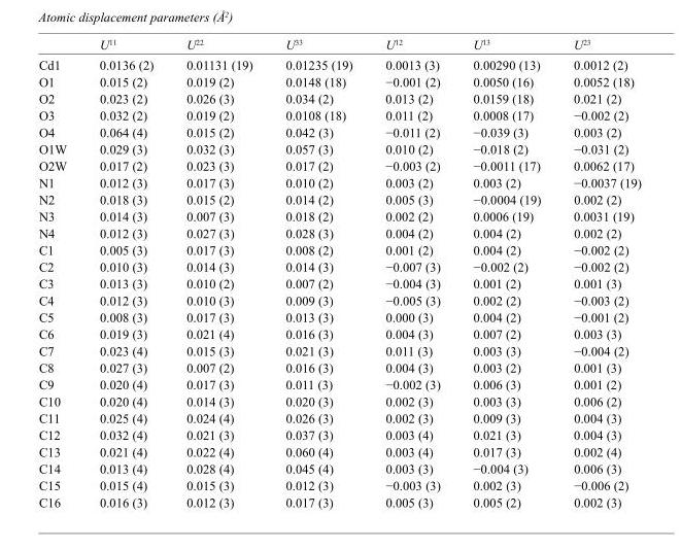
<table><thead><tr><td></td><td>U<sup>11</sup></td><td>U<sup>22</sup></td><td>U<sup>33</sup></td><td>U<sup>12</sup></td><td>U<sup>13</sup></td><td>U<sup>23</sup></td></tr></thead><tbody><tr><td>Cd1</td><td>0.0136 (2)</td><td>0.01131 (19)</td><td>0.01235 (19)</td><td>0.0013 (3)</td><td>0.00290 (13)</td><td>0.0012 (2)</td></tr><tr><td>O1</td><td>0.015 (2)</td><td>0.019 (2)</td><td>0.0148 (18)</td><td>−0.001 (2)</td><td>0.0050 (16)</td><td>0.0052 (18)</td></tr><tr><td>O2</td><td>0.023 (2)</td><td>0.026 (3)</td><td>0.034 (2)</td><td>0.013 (2)</td><td>0.0159 (18)</td><td>0.021 (2)</td></tr><tr><td>O3</td><td>0.032 (2)</td><td>0.019 (2)</td><td>0.0108 (18)</td><td>0.011 (2)</td><td>0.0008 (17)</td><td>−0.002 (2)</td></tr><tr><td>O4</td><td>0.064 (4)</td><td>0.015 (2)</td><td>0.042 (3)</td><td>−0.011 (2)</td><td>−0.039 (3)</td><td>0.003 (2)</td></tr><tr><td>O1W</td><td>0.029 (3)</td><td>0.032 (3)</td><td>0.057 (3)</td><td>0.010 (2)</td><td>−0.018 (2)</td><td>−0.031 (2)</td></tr><tr><td>O2W</td><td>0.017 (2)</td><td>0.023 (3)</td><td>0.017 (2)</td><td>−0.003 (2)</td><td>−0.0011 (17)</td><td>0.0062 (17)</td></tr><tr><td>N1</td><td>0.012 (3)</td><td>0.017 (3)</td><td>0.010 (2)</td><td>0.003 (2)</td><td>0.003 (2)</td><td>−0.0037 (19)</td></tr><tr><td>N2</td><td>0.018 (3)</td><td>0.015 (2)</td><td>0.014 (2)</td><td>0.005 (3)</td><td>−0.0004 (19)</td><td>0.002 (2)</td></tr><tr><td>N3</td><td>0.014 (3)</td><td>0.007 (3)</td><td>0.018 (2)</td><td>0.002 (2)</td><td>0.0006 (19)</td><td>0.0031 (19)</td></tr><tr><td>N4</td><td>0.012 (3)</td><td>0.027 (3)</td><td>0.028 (3)</td><td>0.004 (2)</td><td>0.004 (2)</td><td>0.002 (2)</td></tr><tr><td>C1</td><td>0.005 (3)</td><td>0.017 (3)</td><td>0.008 (2)</td><td>0.001 (2)</td><td>0.004 (2)</td><td>−0.002 (2)</td></tr><tr><td>C2</td><td>0.010 (3)</td><td>0.014 (3)</td><td>0.014 (3)</td><td>−0.007 (3)</td><td>−0.002 (2)</td><td>−0.002 (2)</td></tr><tr><td>C3</td><td>0.013 (3)</td><td>0.010 (2)</td><td>0.007 (2)</td><td>−0.004 (3)</td><td>0.001 (2)</td><td>0.001 (3)</td></tr><tr><td>C4</td><td>0.012 (3)</td><td>0.010 (3)</td><td>0.009 (3)</td><td>−0.005 (3)</td><td>0.002 (2)</td><td>−0.003 (2)</td></tr><tr><td>C5</td><td>0.008 (3)</td><td>0.017 (3)</td><td>0.013 (3)</td><td>0.000 (3)</td><td>0.004 (2)</td><td>−0.001 (2)</td></tr><tr><td>C6</td><td>0.019 (3)</td><td>0.021 (4)</td><td>0.016 (3)</td><td>0.004 (3)</td><td>0.007 (2)</td><td>0.003 (3)</td></tr><tr><td>C7</td><td>0.023 (4)</td><td>0.015 (3)</td><td>0.021 (3)</td><td>0.011 (3)</td><td>0.003 (3)</td><td>−0.004 (2)</td></tr><tr><td>C8</td><td>0.027 (3)</td><td>0.007 (2)</td><td>0.016 (3)</td><td>0.004 (3)</td><td>0.003 (2)</td><td>0.001 (3)</td></tr><tr><td>C9</td><td>0.020 (4)</td><td>0.017 (3)</td><td>0.011 (3)</td><td>−0.002 (3)</td><td>0.006 (3)</td><td>0.001 (2)</td></tr><tr><td>C10</td><td>0.020 (4)</td><td>0.014 (3)</td><td>0.020 (3)</td><td>0.002 (3)</td><td>0.003 (3)</td><td>0.006 (2)</td></tr><tr><td>C11</td><td>0.025 (4)</td><td>0.024 (4)</td><td>0.026 (3)</td><td>0.002 (3)</td><td>0.009 (3)</td><td>0.004 (3)</td></tr><tr><td>C12</td><td>0.032 (4)</td><td>0.021 (3)</td><td>0.037 (3)</td><td>0.003 (4)</td><td>0.021 (3)</td><td>0.004 (3)</td></tr><tr><td>C13</td><td>0.021 (4)</td><td>0.022 (4)</td><td>0.060 (4)</td><td>0.003 (4)</td><td>0.017 (3)</td><td>0.002 (4)</td></tr><tr><td>C14</td><td>0.013 (4)</td><td>0.028 (4)</td><td>0.045 (4)</td><td>0.003 (3)</td><td>−0.004 (3)</td><td>0.006 (3)</td></tr><tr><td>C15</td><td>0.015 (4)</td><td>0.015 (3)</td><td>0.012 (3)</td><td>−0.003 (3)</td><td>0.002 (3)</td><td>−0.006 (2)</td></tr><tr><td>C16</td><td>0.016 (3)</td><td>0.012 (3)</td><td>0.017 (3)</td><td>0.005 (3)</td><td>0.005 (2)</td><td>0.002 (3)</td></tr></tbody></table>